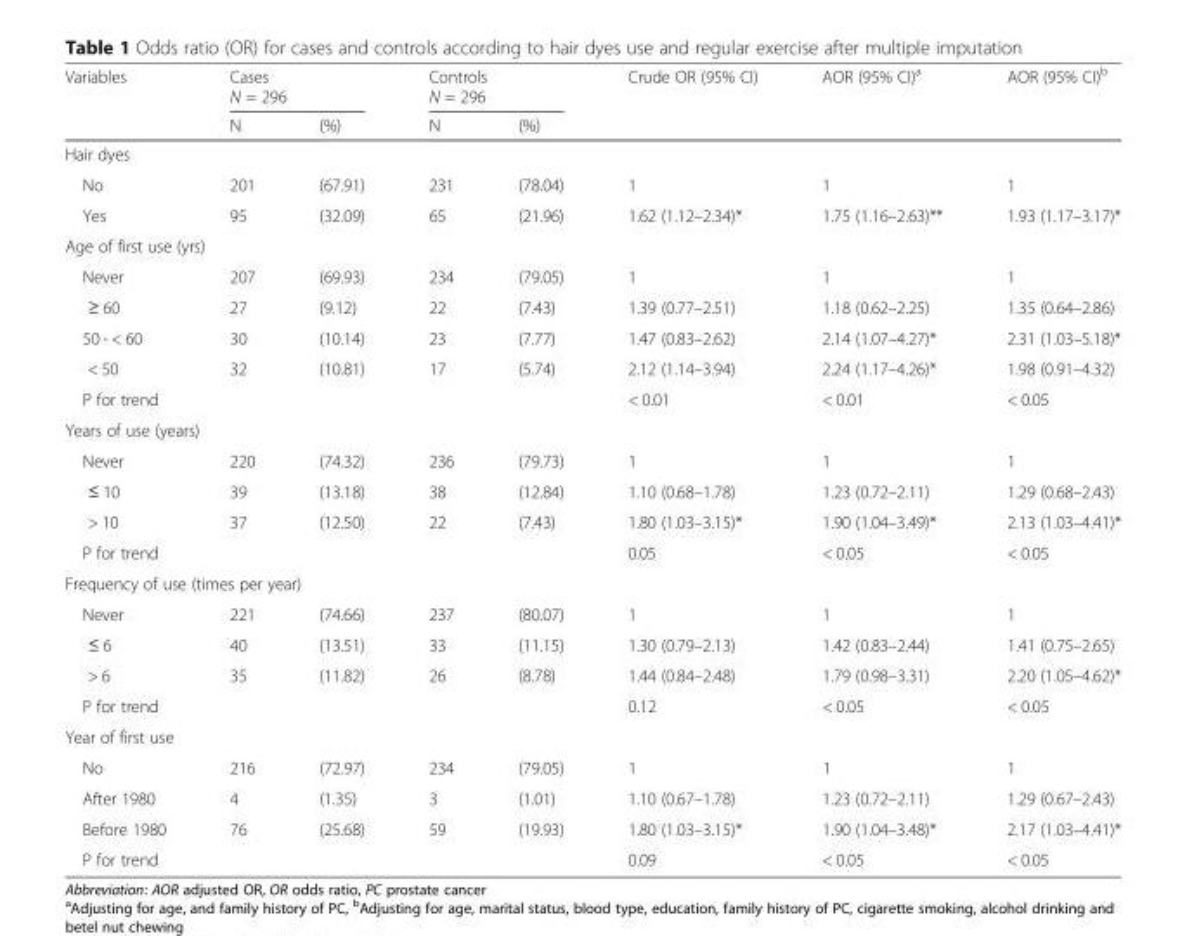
<table><thead><tr><td rowspan="2">Variables</td><td colspan="2">Cases N = 296</td><td colspan="2">Controls N = 296</td><td rowspan="2">Crude OR (95% CI)</td><td rowspan="2">AOR (95% CI)<sup>a</sup></td><td rowspan="2">AOR (95% CI)<sup>b</sup></td></tr><tr><td>N</td><td>(%)</td><td>N</td><td>(%)</td></tr></thead><tbody><tr><td colspan="8">Hair dyes</td></tr><tr><td>No</td><td>201</td><td>(67.91)</td><td>231</td><td>(78.04)</td><td>1</td><td>1</td><td>1</td></tr><tr><td>Yes</td><td>95</td><td>(32.09)</td><td>65</td><td>(21.96)</td><td>1.62 (1.12–2.34)*</td><td>1.75 (1.16–2.63)**</td><td>1.93 (1.17–3.17)*</td></tr><tr><td colspan="8">Age of first use (yrs)</td></tr><tr><td>Never</td><td>207</td><td>(69.93)</td><td>234</td><td>(79.05)</td><td>1</td><td>1</td><td>1</td></tr><tr><td>≥ 60</td><td>27</td><td>(9.12)</td><td>22</td><td>(7.43)</td><td>1.39 (0.77–2.51)</td><td>1.18 (0.62–2.25)</td><td>1.35 (0.64–2.86)</td></tr><tr><td>50 - &lt; 60</td><td>30</td><td>(10.14)</td><td>23</td><td>(7.77)</td><td>1.47 (0.83–2.62)</td><td>2.14 (1.07–4.27)*</td><td>2.31 (1.03–5.18)*</td></tr><tr><td>&lt; 50</td><td>32</td><td>(10.81)</td><td>17</td><td>(5.74)</td><td>2.12 (1.14–3.94)</td><td>2.24 (1.17–4.26)*</td><td>1.98 (0.91–4.32)</td></tr><tr><td>P for trend</td><td></td><td></td><td></td><td></td><td>&lt; 0.01</td><td>&lt; 0.01</td><td>&lt; 0.05</td></tr><tr><td colspan="8">Years of use (years)</td></tr><tr><td>Never</td><td>220</td><td>(74.32)</td><td>236</td><td>(79.73)</td><td>1</td><td>1</td><td>1</td></tr><tr><td>≤ 10</td><td>39</td><td>(13.18)</td><td>38</td><td>(12.84)</td><td>1.10 (0.68–1.78)</td><td>1.23 (0.72–2.11)</td><td>1.29 (0.68–2.43)</td></tr><tr><td>&gt; 10</td><td>37</td><td>(12.50)</td><td>22</td><td>(7.43)</td><td>1.80 (1.03–3.15)*</td><td>1.90 (1.04–3.49)*</td><td>2.13 (1.03–4.41)*</td></tr><tr><td>P for trend</td><td></td><td></td><td></td><td></td><td>0.05</td><td>&lt; 0.05</td><td>&lt; 0.05</td></tr><tr><td colspan="8">Frequency of use (times per year)</td></tr><tr><td>Never</td><td>221</td><td>(74.66)</td><td>237</td><td>(80.07)</td><td>1</td><td>1</td><td>1</td></tr><tr><td>≤ 6</td><td>40</td><td>(13.51)</td><td>33</td><td>(11.15)</td><td>1.30 (0.79–2.13)</td><td>1.42 (0.83–2.44)</td><td>1.41 (0.75–2.65)</td></tr><tr><td>&gt; 6</td><td>35</td><td>(11.82)</td><td>26</td><td>(8.78)</td><td>1.44 (0.84–2.48)</td><td>1.79 (0.98–3.31)</td><td>2.20 (1.05–4.62)*</td></tr><tr><td>P for trend</td><td></td><td></td><td></td><td></td><td>0.12</td><td>&lt; 0.05</td><td>&lt; 0.05</td></tr><tr><td colspan="8">Year of first use</td></tr><tr><td>No</td><td>216</td><td>(72.97)</td><td>234</td><td>(79.05)</td><td>1</td><td>1</td><td>1</td></tr><tr><td>After 1980</td><td>4</td><td>(1.35)</td><td>3</td><td>(1.01)</td><td>1.10 (0.67–1.78)</td><td>1.23 (0.72–2.11)</td><td>1.29 (0.67–2.43)</td></tr><tr><td>Before 1980</td><td>76</td><td>(25.68)</td><td>59</td><td>(19.93)</td><td>1.80 (1.03–3.15)*</td><td>1.90 (1.04–3.48)*</td><td>2.17 (1.03–4.41)*</td></tr><tr><td>P for trend</td><td></td><td></td><td></td><td></td><td>0.09</td><td>&lt; 0.05</td><td>&lt; 0.05</td></tr></tbody></table>